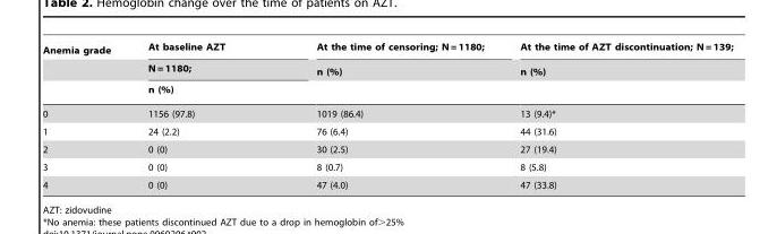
<table><thead><tr><td rowspan="3">Anemia grade</td><td rowspan="3">At baseline AZT N = 1180; n (%)</td><td rowspan="3">At the time of censoring; N = 1180; n (%)</td><td rowspan="3">At the time of AZT discontinuation; N = 139; n (%)</td></tr><tr></tr><tr></tr></thead><tbody><tr><td>0</td><td>1156 (97.8)</td><td>1019 (86.4)</td><td>13 (9.4)*</td></tr><tr><td>1</td><td>24 (2.2)</td><td>76 (6.4)</td><td>44 (31.6)</td></tr><tr><td>2</td><td>0 (0)</td><td>30 (2.5)</td><td>27 (19.4)</td></tr><tr><td>3</td><td>0 (0)</td><td>8 (0.7)</td><td>8 (5.8)</td></tr><tr><td>4</td><td>0 (0)</td><td>47 (4.0)</td><td>47 (33.8)</td></tr></tbody></table>